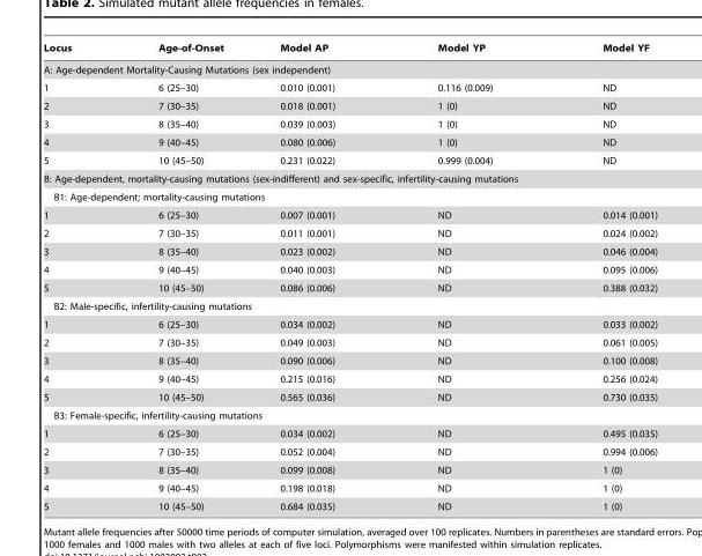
<table><thead><tr><td>Locus</td><td>Age-of-Onset</td><td>Model AP</td><td>Model YP</td><td>Model YF</td></tr></thead><tbody><tr><td colspan="5">A: Age-dependent Mortality-Causing Mutations (sex independent)</td></tr><tr><td>1</td><td>6 (25–30)</td><td>0.010 (0.001)</td><td>0.116 (0.009)</td><td>ND</td></tr><tr><td>2</td><td>7 (30–35)</td><td>0.018 (0.001)</td><td>1 (0)</td><td>ND</td></tr><tr><td>3</td><td>8 (35–40)</td><td>0.039 (0.003)</td><td>1 (0)</td><td>ND</td></tr><tr><td>4</td><td>9 (40–45)</td><td>0.080 (0.006)</td><td>1 (0)</td><td>ND</td></tr><tr><td>5</td><td>10 (45–50)</td><td>0.231 (0.022)</td><td>0.999 (0.004)</td><td>ND</td></tr><tr><td colspan="5">B: Age-dependent, mortality-causing mutations (sex-indifferent) and sex-specific, infertility-causing mutations</td></tr><tr><td colspan="5">B1: Age-dependent; mortality-causing mutations</td></tr><tr><td>1</td><td>6 (25–30)</td><td>0.007 (0.001)</td><td>ND</td><td>0.014 (0.001)</td></tr><tr><td>2</td><td>7 (30–35)</td><td>0.011 (0.001)</td><td>ND</td><td>0.024 (0.002)</td></tr><tr><td>3</td><td>8 (35–40)</td><td>0.023 (0.002)</td><td>ND</td><td>0.046 (0.004)</td></tr><tr><td>4</td><td>9 (40–45)</td><td>0.040 (0.003)</td><td>ND</td><td>0.095 (0.006)</td></tr><tr><td>5</td><td>10 (45–50)</td><td>0.086 (0.006)</td><td>ND</td><td>0.388 (0.032)</td></tr><tr><td colspan="5">B2: Male-specific, infertility-causing mutations</td></tr><tr><td>1</td><td>6 (25–30)</td><td>0.034 (0.002)</td><td>ND</td><td>0.033 (0.002)</td></tr><tr><td>2</td><td>7 (30–35)</td><td>0.049 (0.003)</td><td>ND</td><td>0.061 (0.005)</td></tr><tr><td>3</td><td>8 (35–40)</td><td>0.090 (0.006)</td><td>ND</td><td>0.100 (0.008)</td></tr><tr><td>4</td><td>9 (40–45)</td><td>0.215 (0.016)</td><td>ND</td><td>0.256 (0.024)</td></tr><tr><td>5</td><td>10 (45–50)</td><td>0.565 (0.036)</td><td>ND</td><td>0.730 (0.035)</td></tr><tr><td colspan="5">B3: Female-specific, infertility-causing mutations</td></tr><tr><td>1</td><td>6 (25–30)</td><td>0.034 (0.002)</td><td>ND</td><td>0.495 (0.035)</td></tr><tr><td>2</td><td>7 (30–35)</td><td>0.052 (0.004)</td><td>ND</td><td>0.994 (0.006)</td></tr><tr><td>3</td><td>8 (35–40)</td><td>0.099 (0.008)</td><td>ND</td><td>1 (0)</td></tr><tr><td>4</td><td>9 (40–45)</td><td>0.198 (0.018)</td><td>ND</td><td>1 (0)</td></tr><tr><td>5</td><td>10 (45–50)</td><td>0.684 (0.035)</td><td>ND</td><td>1 (0)</td></tr></tbody></table>